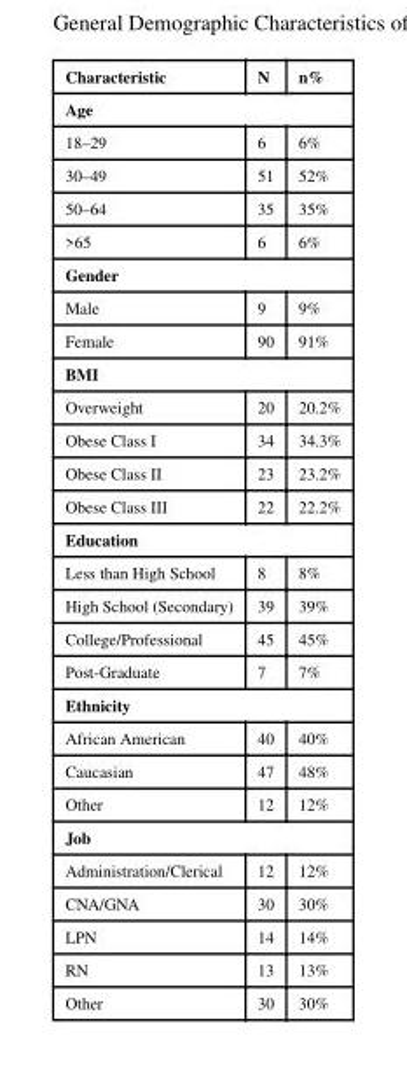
<table><thead><tr><td>Characteristic</td><td>N</td><td>n%</td></tr></thead><tbody><tr><td colspan="3">Age</td></tr><tr><td>18–29</td><td>6</td><td>6%</td></tr><tr><td>30–49</td><td>51</td><td>52%</td></tr><tr><td>50–64</td><td>35</td><td>35%</td></tr><tr><td>&gt;65</td><td>6</td><td>6%</td></tr><tr><td colspan="3">Gender</td></tr><tr><td>Male</td><td>9</td><td>9%</td></tr><tr><td>Female</td><td>90</td><td>91%</td></tr><tr><td colspan="3">BMI</td></tr><tr><td>Overweight</td><td>20</td><td>20.2%</td></tr><tr><td>Obese Class I</td><td>34</td><td>34.3%</td></tr><tr><td>Obese Class II</td><td>23</td><td>23.2%</td></tr><tr><td>Obese Class III</td><td>22</td><td>22.2%</td></tr><tr><td colspan="3">Education</td></tr><tr><td>Less than High School</td><td>8</td><td>8%</td></tr><tr><td>High School (Secondary)</td><td>39</td><td>39%</td></tr><tr><td>College/Professional</td><td>45</td><td>45%</td></tr><tr><td>Post-Graduate</td><td>7</td><td>7%</td></tr><tr><td colspan="3">Ethnicity</td></tr><tr><td>African American</td><td>40</td><td>40%</td></tr><tr><td>Caucasian</td><td>47</td><td>48%</td></tr><tr><td>Other</td><td>12</td><td>12%</td></tr><tr><td colspan="3">Job</td></tr><tr><td>Administration/Clerical</td><td>12</td><td>12%</td></tr><tr><td>CNA/GNA</td><td>30</td><td>30%</td></tr><tr><td>LPN</td><td>14</td><td>14%</td></tr><tr><td>RN</td><td>13</td><td>13%</td></tr><tr><td>Other</td><td>30</td><td>30%</td></tr></tbody></table>